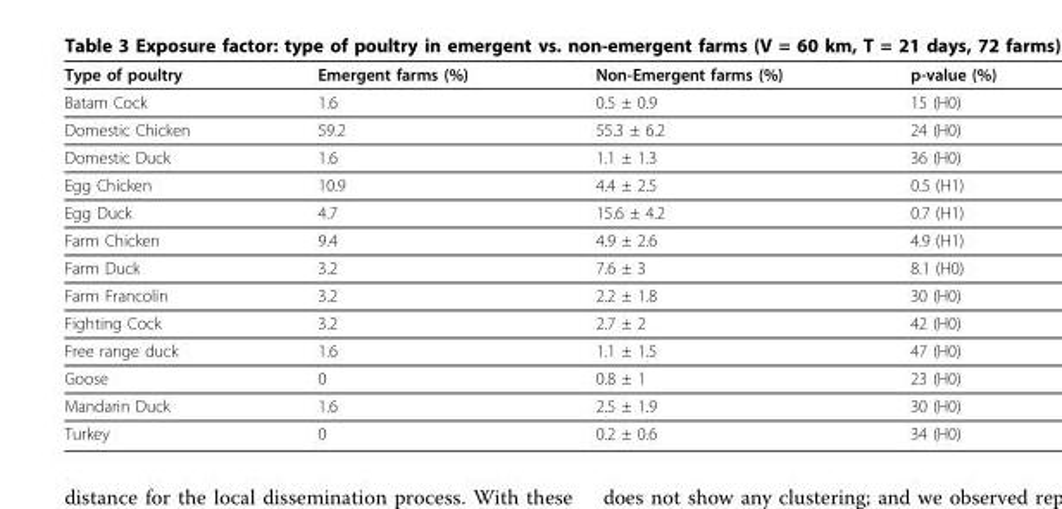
<table><thead><tr><td>Type of poultry</td><td>Emergent farms (%)</td><td>Non-Emergent farms (%)</td><td>p-value (%)</td></tr></thead><tbody><tr><td>Batam Cock</td><td>1.6</td><td>0.5 ± 0.9</td><td>15 (H0)</td></tr><tr><td>Domestic Chicken</td><td>59.2</td><td>55.3 ± 6.2</td><td>24 (H0)</td></tr><tr><td>Domestic Duck</td><td>1.6</td><td>1.1 ± 1.3</td><td>36 (H0)</td></tr><tr><td>Egg Chicken</td><td>10.9</td><td>4.4 ± 2.5</td><td>0.5 (H1)</td></tr><tr><td>Egg Duck</td><td>4.7</td><td>15.6 ± 4.2</td><td>0.7 (H1)</td></tr><tr><td>Farm Chicken</td><td>9.4</td><td>4.9 ± 2.6</td><td>4.9 (H1)</td></tr><tr><td>Farm Duck</td><td>3.2</td><td>7.6 ± 3</td><td>8.1 (H0)</td></tr><tr><td>Farm Francolin</td><td>3.2</td><td>2.2 ± 1.8</td><td>30 (H0)</td></tr><tr><td>Fighting Cock</td><td>3.2</td><td>2.7 ± 2</td><td>42 (H0)</td></tr><tr><td>Free range duck</td><td>1.6</td><td>1.1 ± 1.5</td><td>47 (H0)</td></tr><tr><td>Goose</td><td>0</td><td>0.8 ± 1</td><td>23 (H0)</td></tr><tr><td>Mandarin Duck</td><td>1.6</td><td>2.5 ± 1.9</td><td>30 (H0)</td></tr><tr><td>Turkey</td><td>0</td><td>0.2 ± 0.6</td><td>34 (H0)</td></tr></tbody></table>